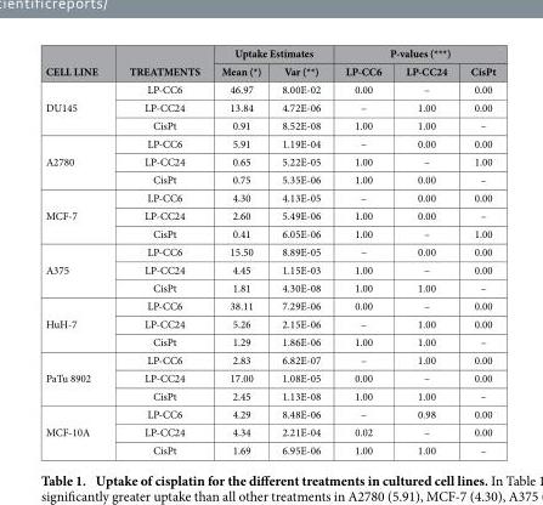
<table><thead><tr><td rowspan="2">CELL LINE</td><td rowspan="2">TREATMENTS</td><td colspan="2">Uptake Estimates</td><td colspan="3">P-values (***)</td></tr><tr><td>Mean (*)</td><td>Var (**)</td><td>LP-CC6</td><td>LP-CC24</td><td>CisPt</td></tr></thead><tbody><tr><td rowspan="3">DU145</td><td>LP-CC6</td><td>46.97</td><td>8.00E-02</td><td>0.00</td><td>–</td><td>0.00</td></tr><tr><td>LP-CC24</td><td>13.84</td><td>4.72E-06</td><td>–</td><td>1.00</td><td>0.00</td></tr><tr><td>CisPt</td><td>0.91</td><td>8.52E-08</td><td>1.00</td><td>1.00</td><td>–</td></tr><tr><td rowspan="3">A2780</td><td>LP-CC6</td><td>5.91</td><td>1.19E-04</td><td>–</td><td>0.00</td><td>0.00</td></tr><tr><td>LP-CC24</td><td>0.65</td><td>5.22E-05</td><td>1.00</td><td>–</td><td>1.00</td></tr><tr><td>CisPt</td><td>0.75</td><td>5.35E-06</td><td>1.00</td><td>0.00</td><td>–</td></tr><tr><td rowspan="3">MCF-7</td><td>LP-CC6</td><td>4.30</td><td>4.13E-05</td><td>–</td><td>0.00</td><td>0.00</td></tr><tr><td>LP-CC24</td><td>2.60</td><td>5.49E-06</td><td>1.00</td><td>0.00</td><td>–</td></tr><tr><td>CisPt</td><td>0.41</td><td>6.05E-06</td><td>1.00</td><td>–</td><td>1.00</td></tr><tr><td rowspan="3">A375</td><td>LP-CC6</td><td>15.50</td><td>8.89E-05</td><td>–</td><td>0.00</td><td>0.00</td></tr><tr><td>LP-CC24</td><td>4.45</td><td>1.15E-03</td><td>1.00</td><td>–</td><td>0.00</td></tr><tr><td>CisPt</td><td>1.81</td><td>4.30E-08</td><td>1.00</td><td>1.00</td><td>–</td></tr><tr><td rowspan="3">HuH-7</td><td>LP-CC6</td><td>38.11</td><td>7.29E-06</td><td>0.00</td><td>–</td><td>0.00</td></tr><tr><td>LP-CC24</td><td>5.26</td><td>2.15E-06</td><td>–</td><td>1.00</td><td>0.00</td></tr><tr><td>CisPt</td><td>1.29</td><td>1.86E-06</td><td>1.00</td><td>1.00</td><td>–</td></tr><tr><td rowspan="3">PaTu 8902</td><td>LP-CC6</td><td>2.83</td><td>6.82E-07</td><td>–</td><td>1.00</td><td>0.00</td></tr><tr><td>LP-CC24</td><td>17.00</td><td>1.08E-05</td><td>0.00</td><td>–</td><td>0.00</td></tr><tr><td>CisPt</td><td>2.45</td><td>1.13E-08</td><td>1.00</td><td>1.00</td><td>–</td></tr><tr><td rowspan="3">MCF-10A</td><td>LP-CC6</td><td>4.29</td><td>8.48E-06</td><td>–</td><td>0.98</td><td>0.00</td></tr><tr><td>LP-CC24</td><td>4.34</td><td>2.21E-04</td><td>0.02</td><td>–</td><td>0.00</td></tr><tr><td>CisPt</td><td>1.69</td><td>6.95E-06</td><td>1.00</td><td>1.00</td><td>–</td></tr></tbody></table>